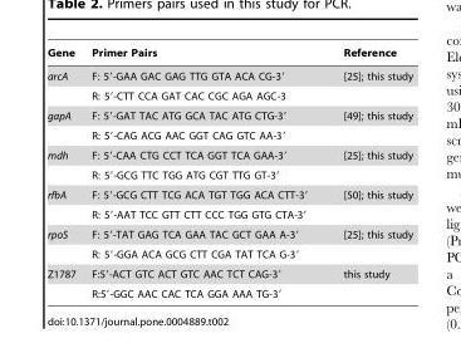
<table><thead><tr><td>Gene</td><td>Primer Pairs</td><td>Reference</td></tr></thead><tbody><tr><td rowspan="2">arcA</td><td>F: 5′-GAA GAC GAG TTG GTA ACA CG-3′</td><td>[25]; this study</td></tr><tr><td>R: 5′-CTT CCA GAT CAC CGC AGA AGC-3</td><td></td></tr><tr><td rowspan="2">gapA</td><td>F: 5′-GAT TAC ATG GCA TAC ATG CTG-3′</td><td>[49]; this study</td></tr><tr><td>R: 5′-CAG ACG AAC GGT CAG GTC AA-3′</td><td></td></tr><tr><td rowspan="2">mdh</td><td>F: 5′-CAA CTG CCT TCA GGT TCA GAA-3′</td><td>[25]; this study</td></tr><tr><td>R: 5′-GCG TTC TGG ATG CGT TTG GT-3′</td><td></td></tr><tr><td rowspan="2">rfbA</td><td>F: 5′-GCG CTT TCG ACA TGT TGG ACA CTT-3′</td><td>[50]; this study</td></tr><tr><td>R: 5′-AAT TCC GTT CTT CCC TGG GTG CTA-3′</td><td></td></tr><tr><td rowspan="2">rpoS</td><td>F: 5′-TAT GAG TCA GAA TAC GCT GAA A-3′</td><td>[25]; this study</td></tr><tr><td>R: 5′-GGA ACA GCG CTT CGA TAT TCA G-3′</td><td></td></tr><tr><td rowspan="2">Z1787</td><td>F:5′-ACT GTC ACT GTC AAC TCT CAG-3′</td><td>this study</td></tr><tr><td>R:5′-GGC AAC CAC TCA GGA AAA TG-3′</td><td></td></tr></tbody></table>